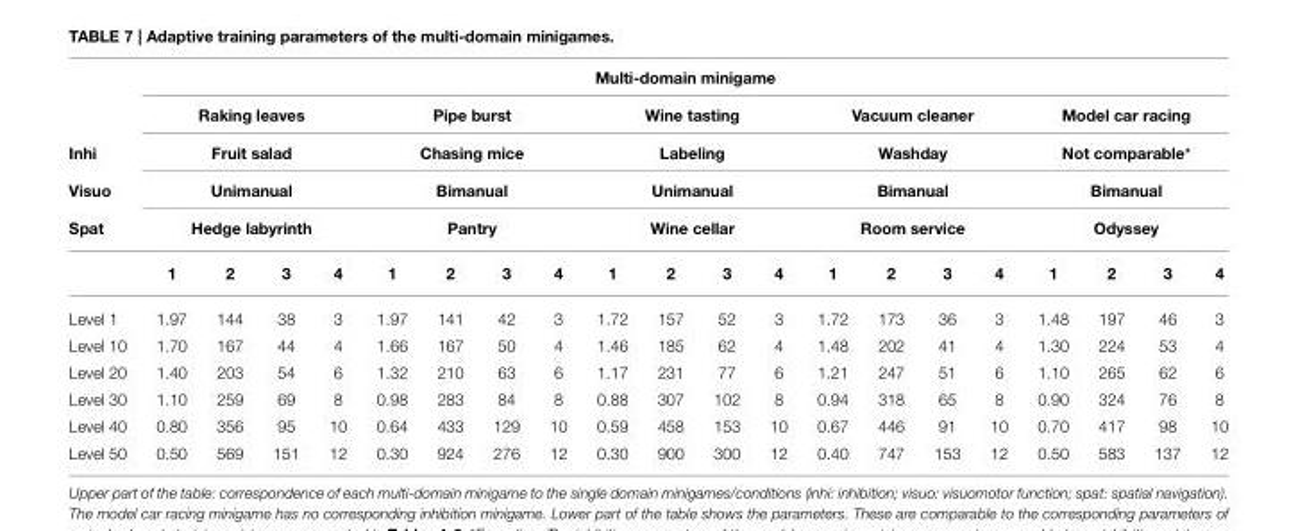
<table><thead><tr><td rowspan="6">Inhi Visuo Spat</td><td colspan="20">Multi-domain minigame</td></tr><tr><td rowspan="4" colspan="4">Raking leaves Fruit salad Unimanual Hedge labyrinth</td><td rowspan="4" colspan="4">Pipe burst Chasing mice Bimanual Pantry</td><td rowspan="4" colspan="4">Wine tasting Labeling Unimanual Wine cellar</td><td rowspan="4" colspan="4">Vacuum cleaner Washday Bimanual Room service</td><td rowspan="4" colspan="4">Model car racing Not comparable* Bimanual Odyssey</td></tr><tr></tr><tr></tr><tr></tr><tr><td>1</td><td>2</td><td>3</td><td>4</td><td>1</td><td>2</td><td>3</td><td>4</td><td>1</td><td>2</td><td>3</td><td>4</td><td>1</td><td>2</td><td>3</td><td>4</td><td>1</td><td>2</td><td>3</td><td>4</td></tr></thead><tbody><tr><td>Level 1</td><td>1.97</td><td>144</td><td>38</td><td>3</td><td>1.97</td><td>141</td><td>42</td><td>3</td><td>1.72</td><td>157</td><td>52</td><td>3</td><td>1.72</td><td>173</td><td>36</td><td>3</td><td>1.48</td><td>197</td><td>46</td><td>3</td></tr><tr><td>Level 10</td><td>1.70</td><td>167</td><td>44</td><td>4</td><td>1.66</td><td>167</td><td>50</td><td>4</td><td>1.46</td><td>185</td><td>62</td><td>4</td><td>1.48</td><td>202</td><td>41</td><td>4</td><td>1.30</td><td>224</td><td>53</td><td>4</td></tr><tr><td>Level 20</td><td>1.40</td><td>203</td><td>54</td><td>6</td><td>1.32</td><td>210</td><td>63</td><td>6</td><td>1.17</td><td>231</td><td>77</td><td>6</td><td>1.21</td><td>247</td><td>51</td><td>6</td><td>1.10</td><td>265</td><td>62</td><td>6</td></tr><tr><td>Level 30</td><td>1.10</td><td>259</td><td>69</td><td>8</td><td>0.98</td><td>283</td><td>84</td><td>8</td><td>0.88</td><td>307</td><td>102</td><td>8</td><td>0.94</td><td>318</td><td>65</td><td>8</td><td>0.90</td><td>324</td><td>76</td><td>8</td></tr><tr><td>Level 40</td><td>0.80</td><td>356</td><td>95</td><td>10</td><td>0.64</td><td>433</td><td>129</td><td>10</td><td>0.59</td><td>458</td><td>153</td><td>10</td><td>0.67</td><td>446</td><td>91</td><td>10</td><td>0.70</td><td>417</td><td>98</td><td>10</td></tr><tr><td>Level 50</td><td>0.50</td><td>569</td><td>151</td><td>12</td><td>0.30</td><td>924</td><td>276</td><td>12</td><td>0.30</td><td>900</td><td>300</td><td>12</td><td>0.40</td><td>747</td><td>153</td><td>12</td><td>0.50</td><td>583</td><td>137</td><td>12</td></tr></tbody></table>